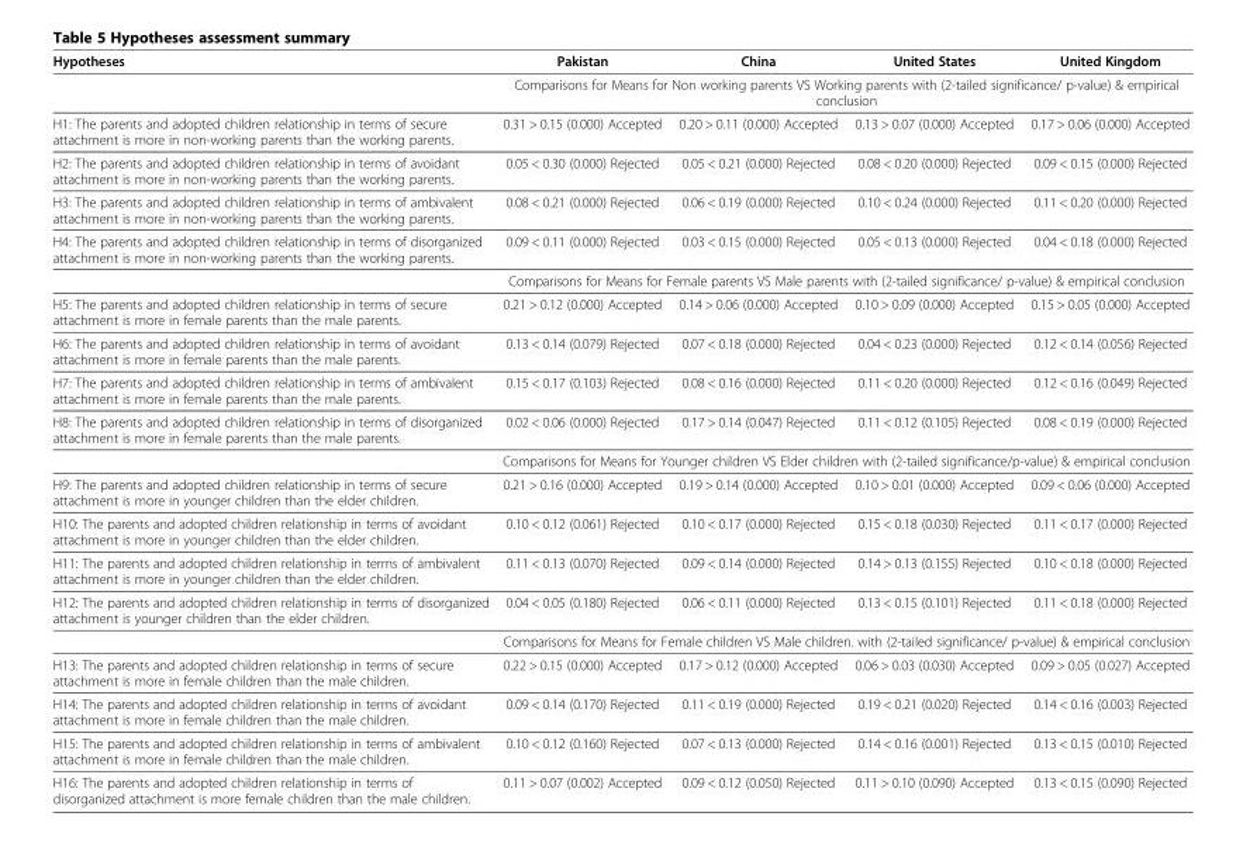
<table><thead><tr><td>Hypotheses</td><td>Pakistan</td><td>China</td><td>United States</td><td>United Kingdom</td></tr></thead><tbody><tr><td></td><td colspan="4">Comparisons for Means for Non working parents VS Working parents with (2-tailed significance/ p-value) &amp; empirical conclusion</td></tr><tr><td>H1: The parents and adopted children relationship in terms of secure attachment is more in non-working parents than the working parents.</td><td>0.31 &gt; 0.15 (0.000) Accepted</td><td>0.20 &gt; 0.11 (0.000) Accepted</td><td>0.13 &gt; 0.07 (0.000) Accepted</td><td>0.17 &gt; 0.06 (0.000) Accepted</td></tr><tr><td>H2: The parents and adopted children relationship in terms of avoidant attachment is more in non-working parents than the working parents.</td><td>0.05 &lt; 0.30 (0.000) Rejected</td><td>0.05 &lt; 0.21 (0.000) Rejected</td><td>0.08 &lt; 0.20 (0.000) Rejected</td><td>0.09 &lt; 0.15 (0.000) Rejected</td></tr><tr><td>H3: The parents and adopted children relationship in terms of ambivalent attachment is more in non-working parents than the working parents.</td><td>0.08 &lt; 0.21 (0.000) Rejected</td><td>0.06 &lt; 0.19 (0.000) Rejected</td><td>0.10 &lt; 0.24 (0.000) Rejected</td><td>0.11 &lt; 0.20 (0.000) Rejected</td></tr><tr><td rowspan="2">H4: The parents and adopted children relationship in terms of disorganized attachment is more in non-working parents than the working parents.</td><td>0.09 &lt; 0.11 (0.000) Rejected</td><td>0.03 &lt; 0.15 (0.000) Rejected</td><td>0.05 &lt; 0.13 (0.000) Rejected</td><td>0.04 &lt; 0.18 (0.000) Rejected</td></tr><tr><td colspan="4">Comparisons for Means for Female parents VS Male parents with (2-tailed significance/ p-value) &amp; empirical conclusion</td></tr><tr><td>H5: The parents and adopted children relationship in terms of secure attachment is more in female parents than the male parents.</td><td>0.21 &gt; 0.12 (0.000) Accepted</td><td>0.14 &gt; 0.06 (0.000) Accepted</td><td>0.10 &gt; 0.09 (0.000) Accepted</td><td>0.15 &gt; 0.05 (0.000) Accepted</td></tr><tr><td>H6: The parents and adopted children relationship in terms of avoidant attachment is more in female parents than the male parents.</td><td>0.13 &lt; 0.14 (0.079) Rejected</td><td>0.07 &lt; 0.18 (0.000) Rejected</td><td>0.04 &lt; 0.23 (0.000) Rejected</td><td>0.12 &lt; 0.14 (0.056) Rejected</td></tr><tr><td>H7: The parents and adopted children relationship in terms of ambivalent attachment is more in female parents than the male parents.</td><td>0.15 &lt; 0.17 (0.103) Rejected</td><td>0.08 &lt; 0.16 (0.000) Rejected</td><td>0.11 &lt; 0.20 (0.000) Rejected</td><td>0.12 &lt; 0.16 (0.049) Rejected</td></tr><tr><td rowspan="2">H8: The parents and adopted children relationship in terms of disorganized attachment is more in female parents than the male parents.</td><td>0.02 &lt; 0.06 (0.000) Rejected</td><td>0.17 &gt; 0.14 (0.047) Rejected</td><td>0.11 &lt; 0.12 (0.105) Rejected</td><td>0.08 &lt; 0.19 (0.000) Rejected</td></tr><tr><td colspan="4">Comparisons for Means for Younger children VS Elder children with (2-tailed significance/p-value) &amp; empirical conclusion</td></tr><tr><td>H9: The parents and adopted children relationship in terms of secure attachment is more in younger children than the elder children.</td><td>0.21 &gt; 0.16 (0.000) Accepted</td><td>0.19 &gt; 0.14 (0.000) Accepted</td><td>0.10 &gt; 0.01 (0.000) Accepted</td><td>0.09 &lt; 0.06 (0.000) Accepted</td></tr><tr><td>H10: The parents and adopted children relationship in terms of avoidant attachment is more in younger children than the elder children.</td><td>0.10 &lt; 0.12 (0.061) Rejected</td><td>0.10 &lt; 0.17 (0.000) Rejected</td><td>0.15 &lt; 0.18 (0.030) Rejected</td><td>0.11 &lt; 0.17 (0.000) Rejected</td></tr><tr><td>H11: The parents and adopted children relationship in terms of ambivalent attachment is more in younger children than the elder children.</td><td>0.11 &lt; 0.13 (0.070) Rejected</td><td>0.09 &lt; 0.14 (0.000) Rejected</td><td>0.14 &gt; 0.13 (0.155) Rejected</td><td>0.10 &lt; 0.18 (0.000) Rejected</td></tr><tr><td rowspan="2">H12: The parents and adopted children relationship in terms of disorganized attachment is younger children than the elder children.</td><td>0.04 &lt; 0.05 (0.180) Rejected</td><td>0.06 &lt; 0.11 (0.000) Rejected</td><td>0.13 &lt; 0.15 (0.101) Rejected</td><td>0.11 &lt; 0.18 (0.000) Rejected</td></tr><tr><td colspan="4">Comparisons for Means for Female children VS Male children. with (2-tailed significance/ p-value) &amp; empirical conclusion</td></tr><tr><td>H13: The parents and adopted children relationship in terms of secure attachment is more in female children than the male children.</td><td>0.22 &gt; 0.15 (0.000) Accepted</td><td>0.17 &gt; 0.12 (0.000) Accepted</td><td>0.06 &gt; 0.03 (0.030) Accepted</td><td>0.09 &gt; 0.05 (0.027) Accepted</td></tr><tr><td>H14: The parents and adopted children relationship in terms of avoidant attachment is more in female children than the male children.</td><td>0.09 &lt; 0.14 (0.170) Rejected</td><td>0.11 &lt; 0.19 (0.000) Rejected</td><td>0.19 &lt; 0.21 (0.020) Rejected</td><td>0.14 &lt; 0.16 (0.003) Rejected</td></tr><tr><td>H15: The parents and adopted children relationship in terms of ambivalent attachment is more in female children than the male children.</td><td>0.10 &lt; 0.12 (0.160) Rejected</td><td>0.07 &lt; 0.13 (0.000) Rejected</td><td>0.14 &lt; 0.16 (0.001) Rejected</td><td>0.13 &lt; 0.15 (0.010) Rejected</td></tr><tr><td>H16: The parents and adopted children relationship in terms of disorganized attachment is more female children than the male children.</td><td>0.11 &gt; 0.07 (0.002) Accepted</td><td>0.09 &lt; 0.12 (0.050) Rejected</td><td>0.11 &gt; 0.10 (0.090) Accepted</td><td>0.13 &lt; 0.15 (0.090) Rejected</td></tr></tbody></table>